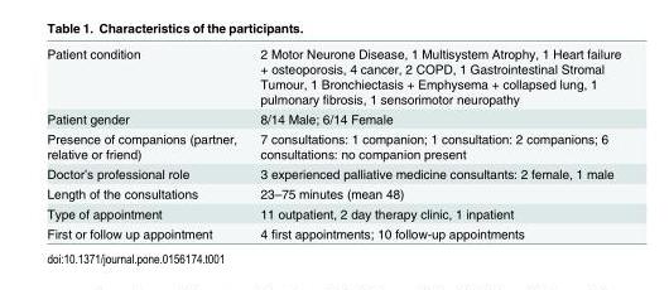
<table><tbody><tr><td>Patient condition</td><td>2 Motor Neurone Disease, 1 Multisystem Atrophy, 1 Heart failure + osteoporosis, 4 cancer, 2 COPD, 1 Gastrointestinal Stromal Tumour, 1 Bronchiectasis + Emphysema + collapsed lung, 1 pulmonary fibrosis, 1 sensorimotor neuropathy</td></tr><tr><td>Patient gender</td><td>8/14 Male; 6/14 Female</td></tr><tr><td>Presence of companions (partner, relative or friend)</td><td>7 consultations: 1 companion; 1 consultation: 2 companions; 6 consultations: no companion present</td></tr><tr><td>Doctor’s professional role</td><td>3 experienced palliative medicine consultants: 2 female, 1 male</td></tr><tr><td>Length of the consultations</td><td>23–75 minutes (mean 48)</td></tr><tr><td>Type of appointment</td><td>11 outpatient, 2 day therapy clinic, 1 inpatient</td></tr><tr><td>First or follow up appointment</td><td>4 first appointments; 10 follow-up appointments</td></tr></tbody></table>